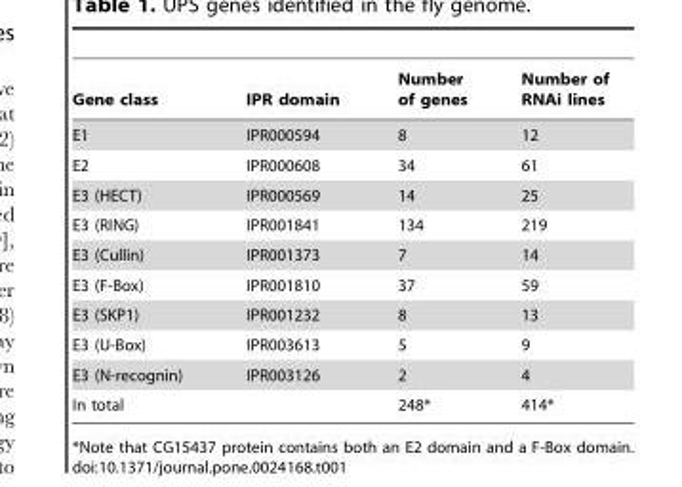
<table><thead><tr><td>Gene class</td><td>IPR domain</td><td>Number of genes</td><td>Number of RNAi lines</td></tr></thead><tbody><tr><td>E1</td><td>IPR000594</td><td>8</td><td>12</td></tr><tr><td>E2</td><td>IPR000608</td><td>34</td><td>61</td></tr><tr><td>E3 (HECT)</td><td>IPR000569</td><td>14</td><td>25</td></tr><tr><td>E3 (RING)</td><td>IPR001841</td><td>134</td><td>219</td></tr><tr><td>E3 (Cullin)</td><td>IPR001373</td><td>7</td><td>14</td></tr><tr><td>E3 (F-Box)</td><td>IPR001810</td><td>37</td><td>59</td></tr><tr><td>E3 (SKP1)</td><td>IPR001232</td><td>8</td><td>13</td></tr><tr><td>E3 (U-Box)</td><td>IPR003613</td><td>5</td><td>9</td></tr><tr><td>E3 (N-recognin)</td><td>IPR003126</td><td>2</td><td>4</td></tr><tr><td>In total</td><td></td><td>248*</td><td>414*</td></tr></tbody></table>